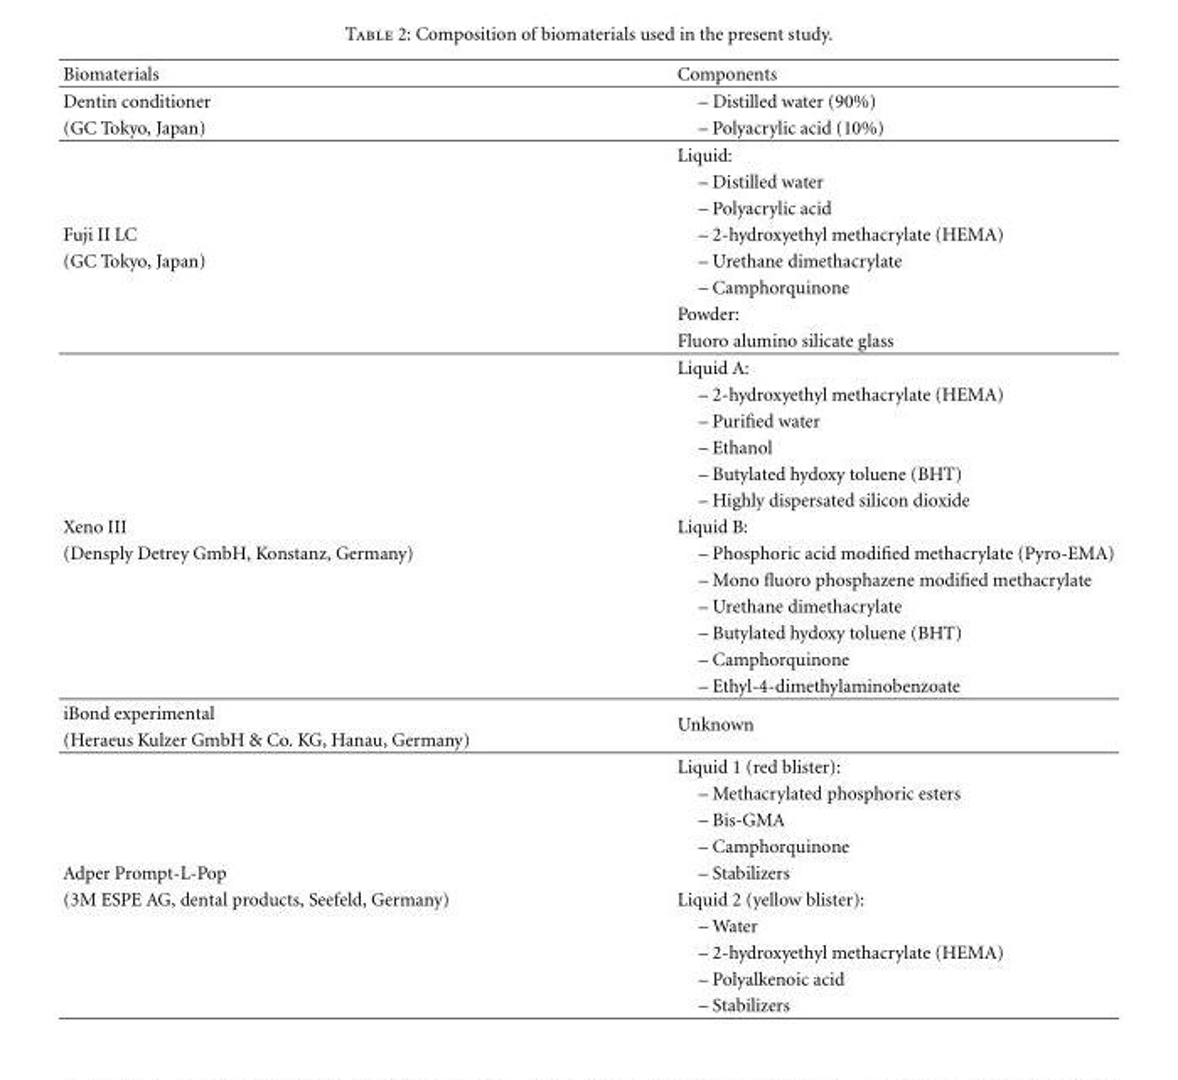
<table><thead><tr><td>Biomaterials</td><td>Components</td></tr></thead><tbody><tr><td>Dentin conditioner</td><td>– Distilled water (90%)</td></tr><tr><td rowspan="4">(GC Tokyo, Japan)</td><td>– Polyacrylic acid (10%)</td></tr><tr><td>Liquid:</td></tr><tr><td>– Distilled water</td></tr><tr><td>– Polyacrylic acid</td></tr><tr><td>Fuji II LC</td><td>– 2-hydroxyethyl methacrylate (HEMA)</td></tr><tr><td rowspan="10">(GC Tokyo, Japan)</td><td>– Urethane dimethacrylate</td></tr><tr><td>– Camphorquinone</td></tr><tr><td>Powder:</td></tr><tr><td>Fluoro alumino silicate glass</td></tr><tr><td>Liquid A:</td></tr><tr><td>– 2-hydroxyethyl methacrylate (HEMA)</td></tr><tr><td>– Purified water</td></tr><tr><td>– Ethanol</td></tr><tr><td>– Butylated hydoxy toluene (BHT)</td></tr><tr><td>– Highly dispersated silicon dioxide</td></tr><tr><td>Xeno III</td><td>Liquid B:</td></tr><tr><td rowspan="6">(Densply Detrey GmbH, Konstanz, Germany)</td><td>– Phosphoric acid modified methacrylate (Pyro-EMA)</td></tr><tr><td>– Mono fluoro phosphazene modified methacrylate</td></tr><tr><td>– Urethane dimethacrylate</td></tr><tr><td>– Butylated hydoxy toluene (BHT)</td></tr><tr><td>– Camphorquinone</td></tr><tr><td>– Ethyl-4-dimethylaminobenzoate</td></tr><tr><td>iBond experimental</td><td rowspan="2">Unknown</td></tr><tr><td rowspan="5">(Heraeus Kulzer GmbH &amp; Co. KG, Hanau, Germany)</td></tr><tr><td>Liquid 1 (red blister):</td></tr><tr><td>– Methacrylated phosphoric esters</td></tr><tr><td>– Bis-GMA</td></tr><tr><td>– Camphorquinone</td></tr><tr><td>Adper Prompt-L-Pop</td><td>– Stabilizers</td></tr><tr><td rowspan="5">(3M ESPE AG, dental products, Seefeld, Germany)</td><td>Liquid 2 (yellow blister):</td></tr><tr><td>– Water</td></tr><tr><td>– 2-hydroxyethyl methacrylate (HEMA)</td></tr><tr><td>– Polyalkenoic acid</td></tr><tr><td>– Stabilizers</td></tr></tbody></table>